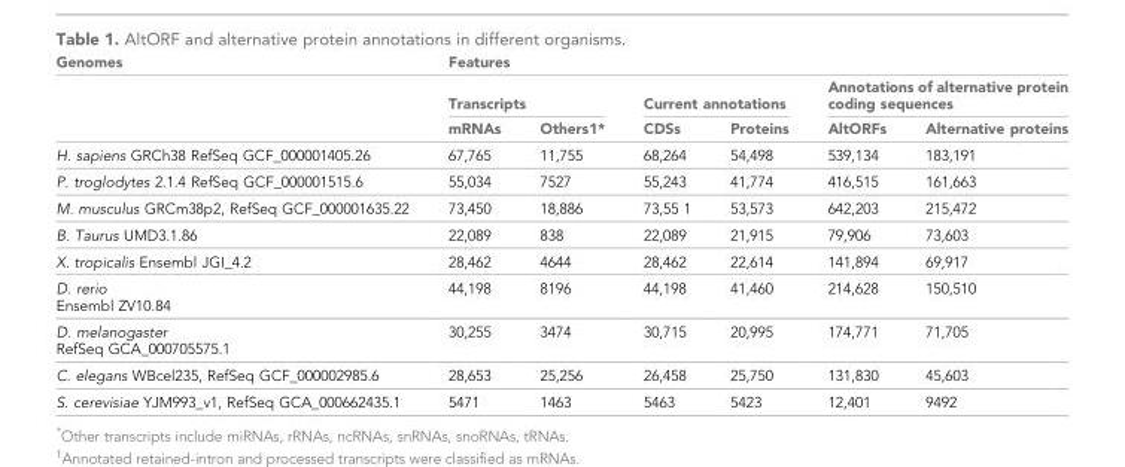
<table><thead><tr><td rowspan="3">Genomes</td><td colspan="6">Features</td></tr><tr><td colspan="2">Transcripts</td><td colspan="2">Current annotations</td><td colspan="2">Annotations of alternative protein coding sequences</td></tr><tr><td>mRNAs</td><td>Others1*</td><td>CDSs</td><td>Proteins</td><td>AltORFs</td><td>Alternative proteins</td></tr></thead><tbody><tr><td>H. sapiens GRCh38 RefSeq GCF_000001405.26</td><td>67,765</td><td>11,755</td><td>68,264</td><td>54,498</td><td>539,134</td><td>183,191</td></tr><tr><td>P. troglodytes 2.1.4 RefSeq GCF_000001515.6</td><td>55,034</td><td>7527</td><td>55,243</td><td>41,774</td><td>416,515</td><td>161,663</td></tr><tr><td>M. musculus GRCm38p2, RefSeq GCF_000001635.22</td><td>73,450</td><td>18,886</td><td>73,55 1</td><td>53,573</td><td>642,203</td><td>215,472</td></tr><tr><td>B. Taurus UMD3.1.86</td><td>22,089</td><td>838</td><td>22,089</td><td>21,915</td><td>79,906</td><td>73,603</td></tr><tr><td>X. tropicalis Ensembl JGI_4.2</td><td>28,462</td><td>4644</td><td>28,462</td><td>22,614</td><td>141,894</td><td>69,917</td></tr><tr><td>D. rerio Ensembl ZV10.84</td><td>44,198</td><td>8196</td><td>44,198</td><td>41,460</td><td>214,628</td><td>150,510</td></tr><tr><td>D. melanogaster RefSeq GCA_000705575.1</td><td>30,255</td><td>3474</td><td>30,715</td><td>20,995</td><td>174,771</td><td>71,705</td></tr><tr><td>C. elegans WBcel235, RefSeq GCF_000002985.6</td><td>28,653</td><td>25,256</td><td>26,458</td><td>25,750</td><td>131,830</td><td>45,603</td></tr><tr><td>S. cerevisiae YJM993_v1, RefSeq GCA_000662435.1</td><td>5471</td><td>1463</td><td>5463</td><td>5423</td><td>12,401</td><td>9492</td></tr></tbody></table>